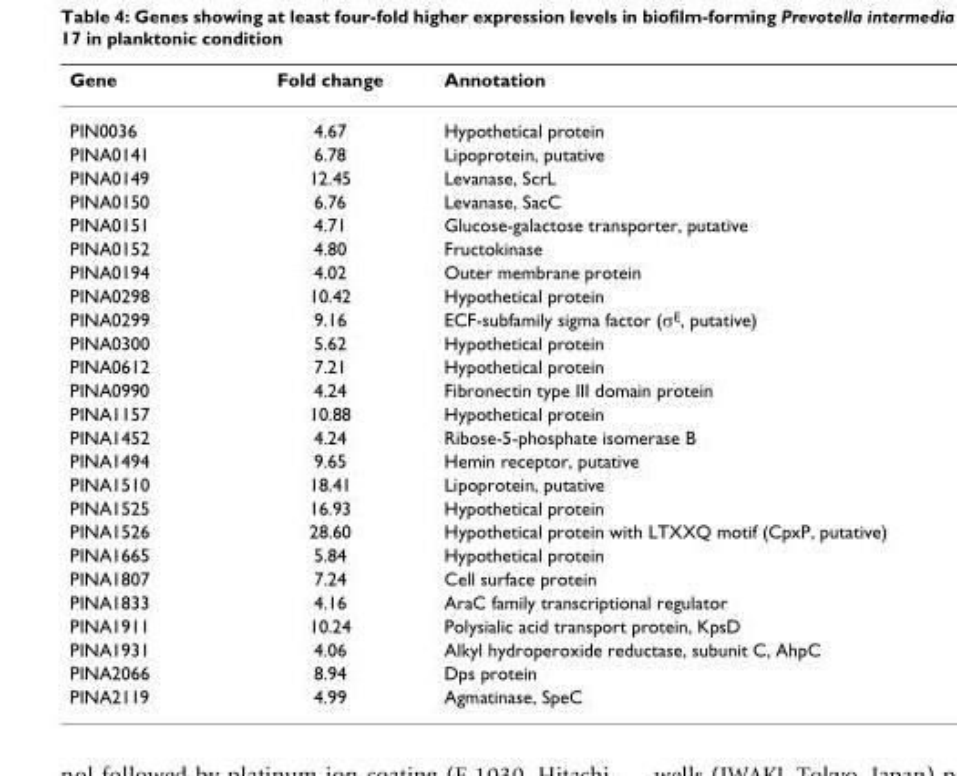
<table><thead><tr><td>Gene</td><td>Fold change</td><td>Annotation</td></tr></thead><tbody><tr><td>PIN0036</td><td>4.67</td><td>Hypothetical protein</td></tr><tr><td>PINA0141</td><td>6.78</td><td>Lipoprotein, putative</td></tr><tr><td>PINA0149</td><td>12.45</td><td>Levanase, ScrL</td></tr><tr><td>PINA0150</td><td>6.76</td><td>Levanase, SacC</td></tr><tr><td>PINA0151</td><td>4.71</td><td>Glucose-galactose transporter, putative</td></tr><tr><td>PINA0152</td><td>4.80</td><td>Fructokinase</td></tr><tr><td>PINA0194</td><td>4.02</td><td>Outer membrane protein</td></tr><tr><td>PINA0298</td><td>10.42</td><td>Hypothetical protein</td></tr><tr><td>PINA0299</td><td>9.16</td><td>ECF-subfamily sigma factor (σ<sup>E</sup>, putative)</td></tr><tr><td>PINA0300</td><td>5.62</td><td>Hypothetical protein</td></tr><tr><td>PINA0612</td><td>7.21</td><td>Hypothetical protein</td></tr><tr><td>PINA0990</td><td>4.24</td><td>Fibronectin type III domain protein</td></tr><tr><td>PINA1157</td><td>10.88</td><td>Hypothetical protein</td></tr><tr><td>PINA1452</td><td>4.24</td><td>Ribose-5-phosphate isomerase B</td></tr><tr><td>PINA1494</td><td>9.65</td><td>Hemin receptor, putative</td></tr><tr><td>PINA1510</td><td>18.41</td><td>Lipoprotein, putative</td></tr><tr><td>PINA1525</td><td>16.93</td><td>Hypothetical protein</td></tr><tr><td>PINA1526</td><td>28.60</td><td>Hypothetical protein with LTXXQ motif (CpxP, putative)</td></tr><tr><td>PINA1665</td><td>5.84</td><td>Hypothetical protein</td></tr><tr><td>PINA1807</td><td>7.24</td><td>Cell surface protein</td></tr><tr><td>PINA1833</td><td>4.16</td><td>AraC family transcriptional regulator</td></tr><tr><td>PINA1911</td><td>10.24</td><td>Polysialic acid transport protein, KpsD</td></tr><tr><td>PINA1931</td><td>4.06</td><td>Alkyl hydroperoxide reductase, subunit C, AhpC</td></tr><tr><td>PINA2066</td><td>8.94</td><td>Dps protein</td></tr><tr><td>PINA2119</td><td>4.99</td><td>Agmatinase, SpeC</td></tr></tbody></table>